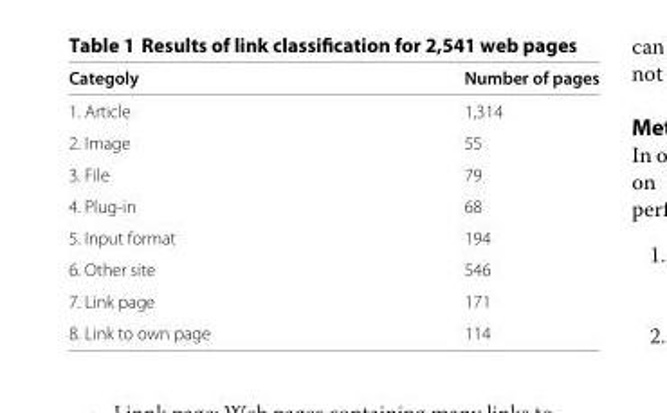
<table><thead><tr><td>Categoly</td><td>Number of pages</td></tr></thead><tbody><tr><td>1. Article</td><td>1,314</td></tr><tr><td>2. Image</td><td>55</td></tr><tr><td>3. File</td><td>79</td></tr><tr><td>4. Plug-in</td><td>68</td></tr><tr><td>5. Input format</td><td>194</td></tr><tr><td>6. Other site</td><td>546</td></tr><tr><td>7. Link page</td><td>171</td></tr><tr><td>8. Link to own page</td><td>114</td></tr></tbody></table>